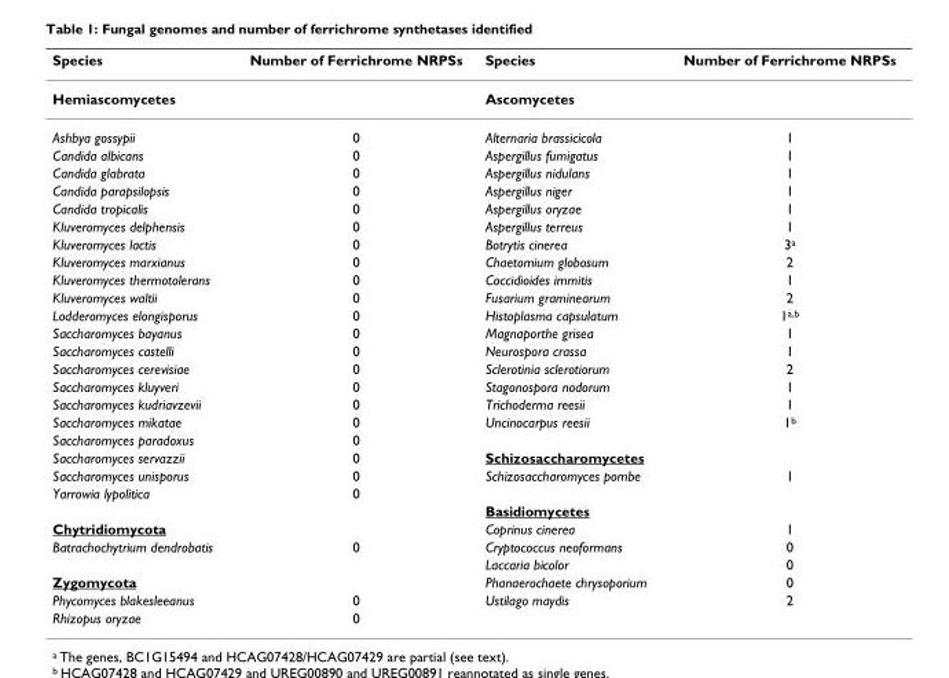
<table><thead><tr><td>Species</td><td>Number of Ferrichrome NRPSs</td><td>Species</td><td>Number of Ferrichrome NRPSs</td></tr></thead><tbody><tr><td>Hemiascomycetes</td><td></td><td>Ascomycetes</td><td></td></tr><tr><td>Ashbya gossypii</td><td>0</td><td>Alternaria brassicicola</td><td>1</td></tr><tr><td>Candida albicans</td><td>0</td><td>Aspergillus fumigatus</td><td>1</td></tr><tr><td>Candida glabrata</td><td>0</td><td>Aspergillus nidulans</td><td>1</td></tr><tr><td>Candida parapsilopsis</td><td>0</td><td>Aspergillus niger</td><td>1</td></tr><tr><td>Candida tropicalis</td><td>0</td><td>Aspergillus oryzae</td><td>1</td></tr><tr><td>Kluveromyces delphensis</td><td>0</td><td>Aspergillus terreus</td><td>1</td></tr><tr><td>Kluveromyces lactis</td><td>0</td><td>Botrytis cinerea</td><td>3<sup>a</sup></td></tr><tr><td>Kluveromyces marxianus</td><td>0</td><td>Chaetomium globosum</td><td>2</td></tr><tr><td>Kluveromyces thermotolerans</td><td>0</td><td>Coccidioides immitis</td><td>1</td></tr><tr><td>Kluveromyces waltii</td><td>0</td><td>Fusarium graminearum</td><td>2</td></tr><tr><td>Lodderomyces elongisporus</td><td>0</td><td>Histoplasma capsulatum</td><td>1<sup>a,b</sup></td></tr><tr><td>Saccharomyces bayanus</td><td>0</td><td>Magnaporthe grisea</td><td>1</td></tr><tr><td>Saccharomyces castelli</td><td>0</td><td>Neurospora crassa</td><td>1</td></tr><tr><td>Saccharomyces cerevisiae</td><td>0</td><td>Sclerotinia sclerotiorum</td><td>2</td></tr><tr><td>Saccharomyces kluyveri</td><td>0</td><td>Stagonospora nodorum</td><td>1</td></tr><tr><td>Saccharomyces kudriavzevii</td><td>0</td><td>Trichoderma reesii</td><td>1</td></tr><tr><td>Saccharomyces mikatae</td><td>0</td><td>Uncinocarpus reesii</td><td>1<sup>b</sup></td></tr><tr><td>Saccharomyces paradoxus</td><td>0</td><td></td><td></td></tr><tr><td>Saccharomyces servazzii</td><td>0</td><td>Schizosaccharomycetes</td><td></td></tr><tr><td>Saccharomyces unisporus</td><td>0</td><td>Schizosaccharomyces pombe</td><td>1</td></tr><tr><td rowspan="2">Yarrowia lypolitica</td><td>0</td><td></td><td></td></tr><tr><td></td><td>Basidiomycetes</td><td></td></tr><tr><td>Chytridiomycota</td><td></td><td>Coprinus cinerea</td><td>1</td></tr><tr><td rowspan="2">Batrachochytrium dendrobatis</td><td>0</td><td>Cryptococcus neoformans</td><td>0</td></tr><tr><td></td><td>Laccaria bicolor</td><td>0</td></tr><tr><td>Zygomycota</td><td></td><td>Phanaerochaete chrysoporium</td><td>0</td></tr><tr><td>Phycomyces blakesleeanus</td><td>0</td><td>Ustilago maydis</td><td>2</td></tr><tr><td>Rhizopus oryzae</td><td>0</td><td></td><td></td></tr></tbody></table>